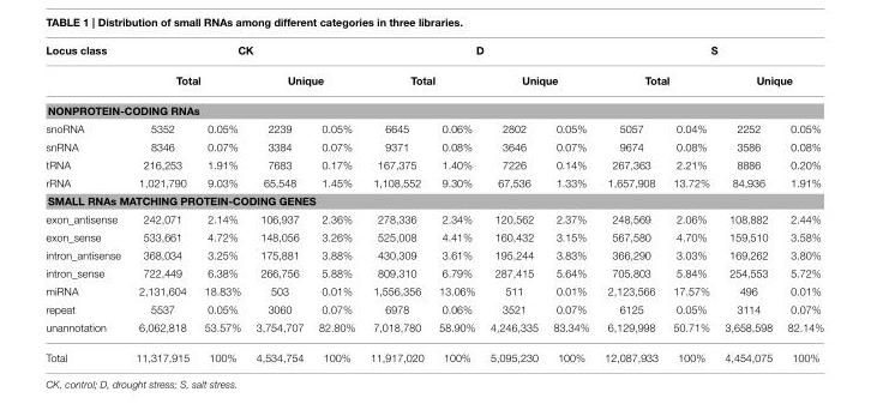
<table><thead><tr><td rowspan="2">Locus class</td><td colspan="4">CK</td><td colspan="4">D</td><td colspan="4">S</td></tr><tr><td colspan="2">Total</td><td colspan="2">Unique</td><td colspan="2">Total</td><td colspan="2">Unique</td><td colspan="2">Total</td><td colspan="2">Unique</td></tr><tr><td colspan="13">NONPROTEIN-CODING RNAs</td></tr><tr><td>snoRNA</td><td>5352</td><td>0.05%</td><td>2239</td><td>0.05%</td><td>6645</td><td>0.06%</td><td>2802</td><td>0.05%</td><td>5057</td><td>0.04%</td><td>2252</td><td>0.05%</td></tr></thead><tbody><tr><td>snRNA</td><td>8346</td><td>0.07%</td><td>3384</td><td>0.07%</td><td>9371</td><td>0.08%</td><td>3646</td><td>0.07%</td><td>9674</td><td>0.08%</td><td>3586</td><td>0.08%</td></tr><tr><td>tRNA</td><td>216,253</td><td>1.91%</td><td>7683</td><td>0.17%</td><td>167,375</td><td>1.40%</td><td>7226</td><td>0.14%</td><td>267,363</td><td>2.21%</td><td>8886</td><td>0.20%</td></tr><tr><td>rRNA</td><td>1,021,790</td><td>9.03%</td><td>65,548</td><td>1.45%</td><td>1,108,552</td><td>9.30%</td><td>67,536</td><td>1.33%</td><td>1,657,908</td><td>13.72%</td><td>84,936</td><td>1.91%</td></tr><tr><td colspan="13">SMALL RNAs MATCHING PROTEIN-CODING GENES</td></tr><tr><td>exon_antisense</td><td>242,071</td><td>2.14%</td><td>106,937</td><td>2.36%</td><td>278,336</td><td>2.34%</td><td>120,562</td><td>2.37%</td><td>248,569</td><td>2.06%</td><td>108,882</td><td>2.44%</td></tr><tr><td>exon_sense</td><td>533,661</td><td>4.72%</td><td>148,056</td><td>3.26%</td><td>525,008</td><td>4.41%</td><td>160,432</td><td>3.15%</td><td>567,580</td><td>4.70%</td><td>159,510</td><td>3.58%</td></tr><tr><td>intron_antisense</td><td>368,034</td><td>3.25%</td><td>175,881</td><td>3.88%</td><td>430,309</td><td>3.61%</td><td>195,244</td><td>3.83%</td><td>366,290</td><td>3.03%</td><td>169,262</td><td>3.80%</td></tr><tr><td>intron_sense</td><td>722,449</td><td>6.38%</td><td>266,756</td><td>5.88%</td><td>809,310</td><td>6.79%</td><td>287,415</td><td>5.64%</td><td>705,803</td><td>5.84%</td><td>254,553</td><td>5.72%</td></tr><tr><td>miRNA</td><td>2,131,604</td><td>18.83%</td><td>503</td><td>0.01%</td><td>1,556,356</td><td>13.06%</td><td>511</td><td>0.01%</td><td>2,123,566</td><td>17.57%</td><td>496</td><td>0.01%</td></tr><tr><td>repeat</td><td>5537</td><td>0.05%</td><td>3060</td><td>0.07%</td><td>6978</td><td>0.06%</td><td>3521</td><td>0.07%</td><td>6125</td><td>0.05%</td><td>3114</td><td>0.07%</td></tr><tr><td>unannotation</td><td>6,062,818</td><td>53.57%</td><td>3,754,707</td><td>82.80%</td><td>7,018,780</td><td>58.90%</td><td>4,246,335</td><td>83.34%</td><td>6,129,998</td><td>50.71%</td><td>3,658,598</td><td>82.14%</td></tr><tr><td>Total</td><td>11,317,915</td><td>100%</td><td>4,534,754</td><td>100%</td><td>11,917,020</td><td>100%</td><td>5,095,230</td><td>100%</td><td>12,087,933</td><td>100%</td><td>4,454,075</td><td>100%</td></tr></tbody></table>